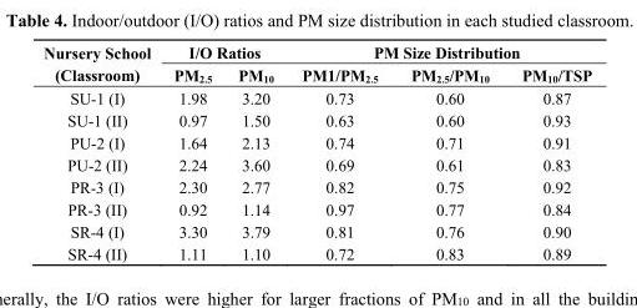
<table><thead><tr><td rowspan="2">Nursery School (Classroom)</td><td colspan="2">I/O Ratios</td><td colspan="3">PM Size Distribution</td></tr><tr><td>PM<sub>2.5</sub></td><td>PM<sub>10</sub></td><td>PM1/PM<sub>2.5</sub></td><td>PM<sub>2.5</sub>/PM<sub>10</sub></td><td>PM<sub>10</sub>/TSP</td></tr></thead><tbody><tr><td>SU-1 (I)</td><td>1.98</td><td>3.20</td><td>0.73</td><td>0.60</td><td>0.87</td></tr><tr><td>SU-1 (II)</td><td>0.97</td><td>1.50</td><td>0.63</td><td>0.60</td><td>0.93</td></tr><tr><td>PU-2 (I)</td><td>1.64</td><td>2.13</td><td>0.74</td><td>0.71</td><td>0.91</td></tr><tr><td>PU-2 (II)</td><td>2.24</td><td>3.60</td><td>0.69</td><td>0.61</td><td>0.83</td></tr><tr><td>PR-3 (I)</td><td>2.30</td><td>2.77</td><td>0.82</td><td>0.75</td><td>0.92</td></tr><tr><td>PR-3 (II)</td><td>0.92</td><td>1.14</td><td>0.97</td><td>0.77</td><td>0.84</td></tr><tr><td>SR-4 (I)</td><td>3.30</td><td>3.79</td><td>0.81</td><td>0.76</td><td>0.90</td></tr><tr><td>SR-4 (II)</td><td>1.11</td><td>1.10</td><td>0.72</td><td>0.83</td><td>0.89</td></tr></tbody></table>